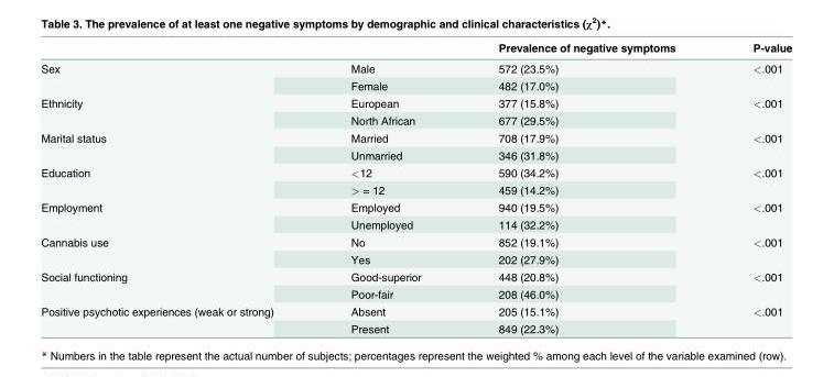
<table><thead><tr><td></td><td></td><td>Prevalence of negative symptoms</td><td>P-value</td></tr></thead><tbody><tr><td rowspan="2">Sex</td><td>Male</td><td>572 (23.5%)</td><td rowspan="2">&lt;.001</td></tr><tr><td>Female</td><td>482 (17.0%)</td></tr><tr><td rowspan="2">Ethnicity</td><td>European</td><td>377 (15.8%)</td><td rowspan="2">&lt;.001</td></tr><tr><td>North African</td><td>677 (29.5%)</td></tr><tr><td rowspan="2">Marital status</td><td>Married</td><td>708 (17.9%)</td><td rowspan="2">&lt;.001</td></tr><tr><td>Unmarried</td><td>346 (31.8%)</td></tr><tr><td rowspan="2">Education</td><td>&lt;12</td><td>590 (34.2%)</td><td rowspan="2">&lt;.001</td></tr><tr><td>&gt; = 12</td><td>459 (14.2%)</td></tr><tr><td rowspan="2">Employment</td><td>Employed</td><td>940 (19.5%)</td><td rowspan="2">&lt;.001</td></tr><tr><td>Unemployed</td><td>114 (32.2%)</td></tr><tr><td rowspan="2">Cannabis use</td><td>No</td><td>852 (19.1%)</td><td rowspan="2">&lt;.001</td></tr><tr><td>Yes</td><td>202 (27.9%)</td></tr><tr><td rowspan="2">Social functioning</td><td>Good-superior</td><td>448 (20.8%)</td><td rowspan="2">&lt;.001</td></tr><tr><td>Poor-fair</td><td>208 (46.0%)</td></tr><tr><td rowspan="2">Positive psychotic experiences (weak or strong)</td><td>Absent</td><td>205 (15.1%)</td><td rowspan="2">&lt;.001</td></tr><tr><td>Present</td><td>849 (22.3%)</td></tr></tbody></table>